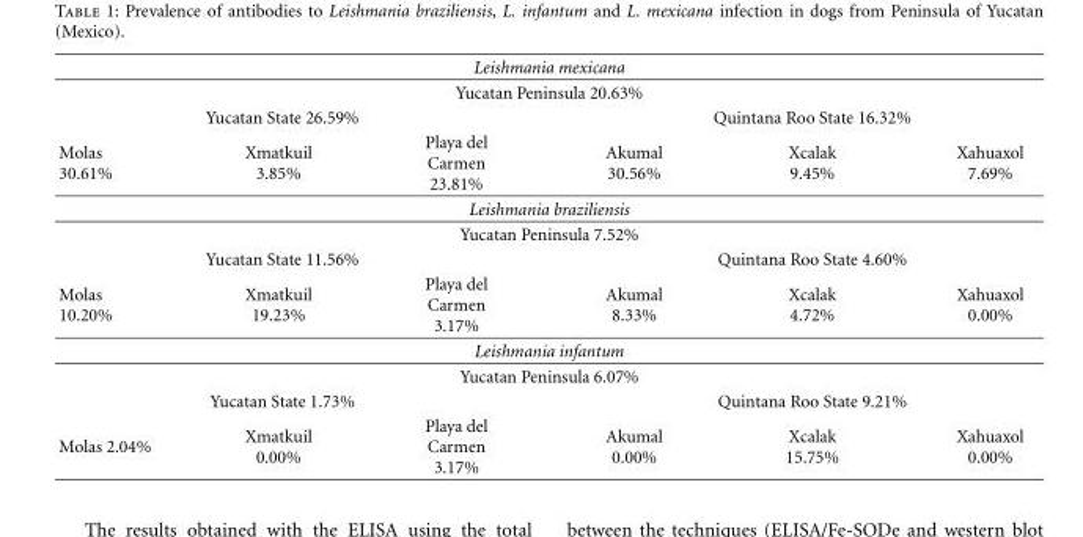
<table><thead><tr><td rowspan="2" colspan="6">Leishmania mexicana Yucatan Peninsula 20.63%</td></tr><tr></tr><tr><td colspan="3">Yucatan State 26.59%</td><td colspan="3">Quintana Roo State 16.32%</td></tr><tr><td>Molas 30.61%</td><td>Xmatkuil 3.85%</td><td>Playa del Carmen 23.81%</td><td>Akumal 30.56%</td><td>Xcalak 9.45%</td><td>Xahuaxol 7.69%</td></tr></thead><tbody><tr><td colspan="6">Leishmania braziliensis</td></tr><tr><td colspan="6">Yucatan Peninsula 7.52%</td></tr><tr><td colspan="3">Yucatan State 11.56%</td><td colspan="3">Quintana Roo State 4.60%</td></tr><tr><td>Molas 10.20%</td><td>Xmatkuil 19.23%</td><td>Playa del Carmen 3.17%</td><td>Akumal 8.33%</td><td>Xcalak 4.72%</td><td>Xahuaxol 0.00%</td></tr><tr><td colspan="6">Leishmania infantum</td></tr><tr><td colspan="6">Yucatan Peninsula 6.07%</td></tr><tr><td colspan="3">Yucatan State 1.73%</td><td colspan="3">Quintana Roo State 9.21%</td></tr><tr><td>Molas 2.04%</td><td>Xmatkuil 0.00%</td><td>Playa del Carmen 3.17%</td><td>Akumal 0.00%</td><td>Xcalak 15.75%</td><td>Xahuaxol 0.00%</td></tr></tbody></table>